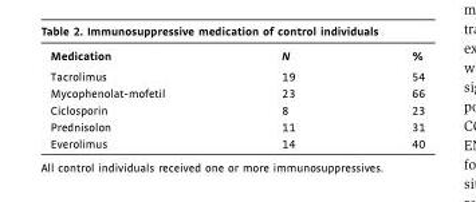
<table><thead><tr><td>Medication</td><td>N</td><td>%</td></tr></thead><tbody><tr><td>Tacrolimus</td><td>19</td><td>54</td></tr><tr><td>Mycophenolat-mofetil</td><td>23</td><td>66</td></tr><tr><td>Ciclosporin</td><td>8</td><td>23</td></tr><tr><td>Prednisolon</td><td>11</td><td>31</td></tr><tr><td>Everolimus</td><td>14</td><td>40</td></tr></tbody></table>